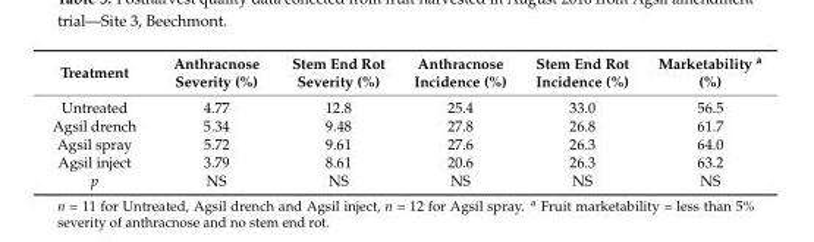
<table><thead><tr><td>Treatment</td><td>Anthracnose Severity (%)</td><td>Stem End Rot Severity (%)</td><td>Anthracnose Incidence (%)</td><td>Stem End Rot Incidence (%)</td><td>Marketability <sup>a</sup> (%)</td></tr></thead><tbody><tr><td>Untreated</td><td>4.77</td><td>12.8</td><td>25.4</td><td>33.0</td><td>56.5</td></tr><tr><td>Agsil drench</td><td>5.34</td><td>9.48</td><td>27.8</td><td>26.8</td><td>61.7</td></tr><tr><td>Agsil spray</td><td>5.72</td><td>9.61</td><td>27.6</td><td>26.3</td><td>64.0</td></tr><tr><td>Agsil inject</td><td>3.79</td><td>8.61</td><td>20.6</td><td>26.3</td><td>63.2</td></tr><tr><td>p</td><td>NS</td><td>NS</td><td>NS</td><td>NS</td><td>NS</td></tr></tbody></table>